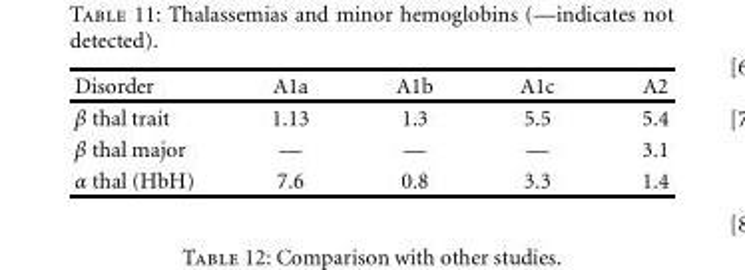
<table><thead><tr><td>Disorder</td><td>A1a</td><td>A1b</td><td>A1c</td><td>A2</td></tr></thead><tbody><tr><td>β thal trait</td><td>1.13</td><td>1.3</td><td>5.5</td><td>5.4</td></tr><tr><td>β thal major</td><td>—</td><td>—</td><td>—</td><td>3.1</td></tr><tr><td>α thal (HbH)</td><td>7.6</td><td>0.8</td><td>3.3</td><td>1.4</td></tr></tbody></table>